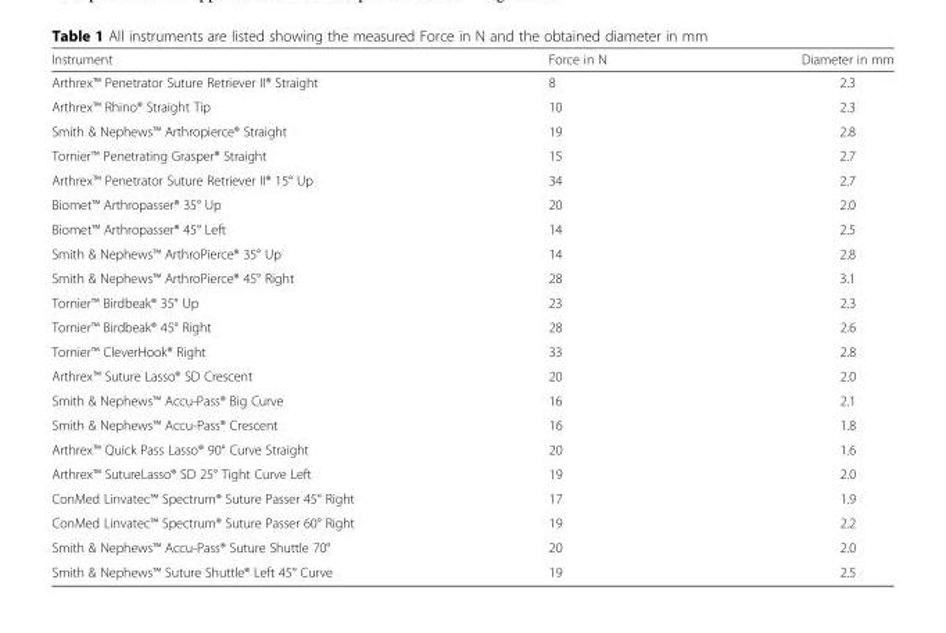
<table><thead><tr><td>Instrument</td><td>Force in N</td><td>Diameter in mm</td></tr></thead><tbody><tr><td>Arthrex™ Penetrator Suture Retriever II® Straight</td><td>8</td><td>2.3</td></tr><tr><td>Arthrex™ Rhino® Straight Tip</td><td>10</td><td>2.3</td></tr><tr><td>Smith &amp; Nephews™ Arthropierce® Straight</td><td>19</td><td>2.8</td></tr><tr><td>Tornier™ Penetrating Grasper® Straight</td><td>15</td><td>2.7</td></tr><tr><td>Arthrex™ Penetrator Suture Retriever II® 15° Up</td><td>34</td><td>2.7</td></tr><tr><td>Biomet™ Arthropasser® 35° Up</td><td>20</td><td>2.0</td></tr><tr><td>Biomet™ Arthropasser® 45° Left</td><td>14</td><td>2.5</td></tr><tr><td>Smith &amp; Nephews™ ArthroPierce® 35° Up</td><td>14</td><td>2.8</td></tr><tr><td>Smith &amp; Nephews™ ArthroPierce® 45° Right</td><td>28</td><td>3.1</td></tr><tr><td>Tornier™ Birdbeak® 35° Up</td><td>23</td><td>2.3</td></tr><tr><td>Tornier™ Birdbeak® 45° Right</td><td>28</td><td>2.6</td></tr><tr><td>Tornier™ CleverHook® Right</td><td>33</td><td>2.8</td></tr><tr><td>Arthrex™ Suture Lasso® SD Crescent</td><td>20</td><td>2.0</td></tr><tr><td>Smith &amp; Nephews™ Accu-Pass® Big Curve</td><td>16</td><td>2.1</td></tr><tr><td>Smith &amp; Nephews™ Accu-Pass® Crescent</td><td>16</td><td>1.8</td></tr><tr><td>Arthrex™ Quick Pass Lasso® 90° Curve Straight</td><td>20</td><td>1.6</td></tr><tr><td>Arthrex™ SutureLasso® SD 25° Tight Curve Left</td><td>19</td><td>2.0</td></tr><tr><td>ConMed Linvatec™ Spectrum® Suture Passer 45° Right</td><td>17</td><td>1.9</td></tr><tr><td>ConMed Linvatec™ Spectrum® Suture Passer 60° Right</td><td>19</td><td>2.2</td></tr><tr><td>Smith &amp; Nephews™ Accu-Pass® Suture Shuttle 70°</td><td>20</td><td>2.0</td></tr><tr><td>Smith &amp; Nephews™ Suture Shuttle® Left 45° Curve</td><td>19</td><td>2.5</td></tr></tbody></table>